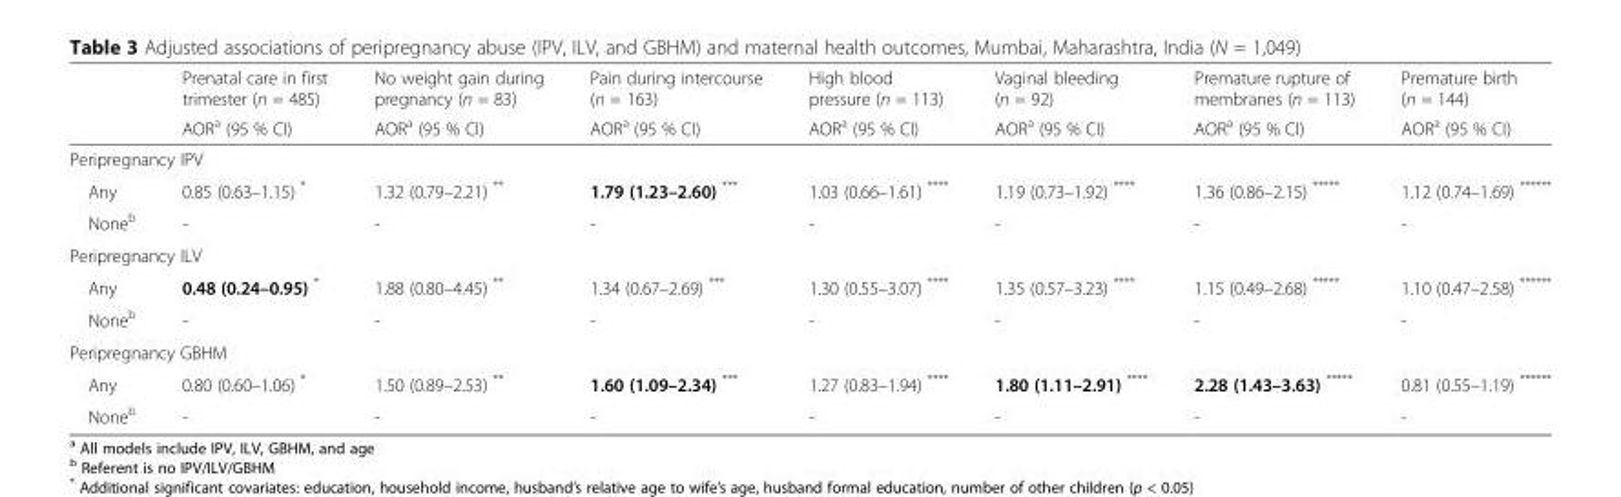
<table><thead><tr><td rowspan="2"></td><td rowspan="2">Prenatal care in first trimester (n = 485) AOR<sup>a</sup> (95 % CI)</td><td rowspan="2">No weight gain during pregnancy (n = 83) AOR<sup>a</sup> (95 % CI)</td><td rowspan="2">Pain during intercourse (n = 163) AOR<sup>a</sup> (95 % CI)</td><td rowspan="2">High blood pressure (n = 113) AOR<sup>a</sup> (95 % CI)</td><td rowspan="2">Vaginal bleeding (n = 92) AOR<sup>a</sup> (95 % CI)</td><td rowspan="2">Premature rupture of membranes (n = 113) AOR<sup>a</sup> (95 % CI)</td><td rowspan="2">Premature birth (n = 144) AOR<sup>a</sup> (95 % CI)</td></tr><tr></tr></thead><tbody><tr><td colspan="8">Peripregnancy IPV</td></tr><tr><td>Any</td><td>0.85 (0.63–1.15) *</td><td>1.32 (0.79–2.21) **</td><td>1.79 (1.23–2.60) ***</td><td>1.03 (0.66–1.61) ****</td><td>1.19 (0.73–1.92) ****</td><td>1.36 (0.86–2.15) *****</td><td>1.12 (0.74–1.69) ******</td></tr><tr><td>None<sup>b</sup></td><td>-</td><td>-</td><td>-</td><td>-</td><td>-</td><td>-</td><td>-</td></tr><tr><td colspan="8">Peripregnancy ILV</td></tr><tr><td>Any</td><td>0.48 (0.24–0.95) *</td><td>1.88 (0.80–4.45) **</td><td>1.34 (0.67–2.69) ***</td><td>1.30 (0.55–3.07) ****</td><td>1.35 (0.57–3.23) ****</td><td>1.15 (0.49–2.68) *****</td><td>1.10 (0.47–2.58) ******</td></tr><tr><td>None<sup>b</sup></td><td>-</td><td>-</td><td>-</td><td>-</td><td>-</td><td>-</td><td>-</td></tr><tr><td colspan="8">Peripregnancy GBHM</td></tr><tr><td>Any</td><td>0.80 (0.60–1.06) *</td><td>1.50 (0.89–2.53) **</td><td>1.60 (1.09–2.34) ***</td><td>1.27 (0.83–1.94) ****</td><td>1.80 (1.11–2.91) ****</td><td>2.28 (1.43–3.63) *****</td><td>0.81 (0.55–1.19) ******</td></tr><tr><td>None<sup>b</sup></td><td>-</td><td>-</td><td>-</td><td>-</td><td>-</td><td>-</td><td>-</td></tr></tbody></table>